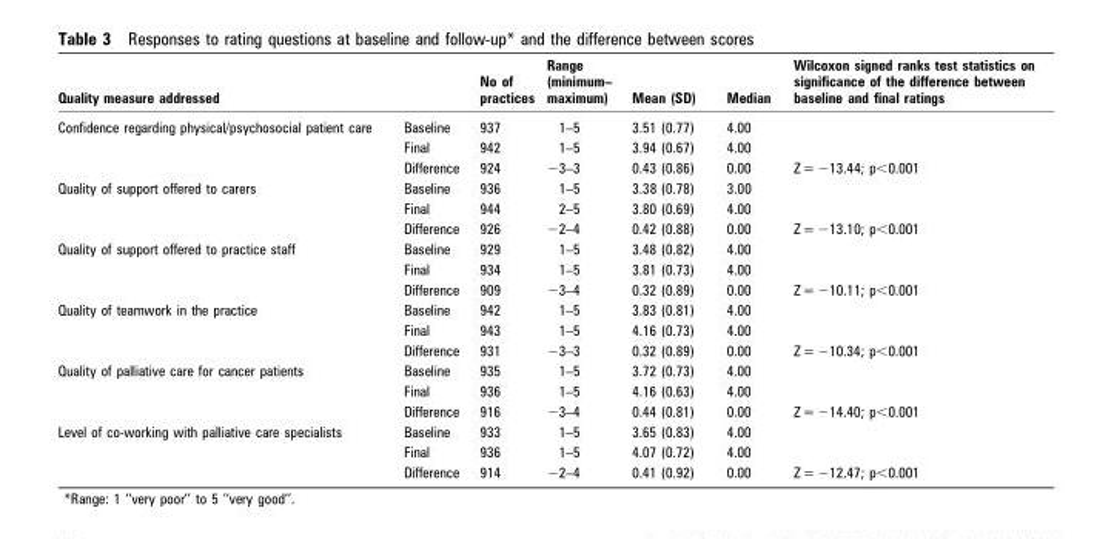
<table><thead><tr><td>Quality measure addressed</td><td></td><td>No of practices</td><td>Range (minimum– maximum)</td><td>Mean (SD)</td><td>Median</td><td>Wilcoxon signed ranks test statistics on significance of the difference between baseline and final ratings</td></tr></thead><tbody><tr><td rowspan="3">Confidence regarding physical/psychosocial patient care</td><td>Baseline</td><td>937</td><td>1–5</td><td>3.51 (0.77)</td><td>4.00</td><td></td></tr><tr><td>Final</td><td>942</td><td>1–5</td><td>3.94 (0.67)</td><td>4.00</td><td></td></tr><tr><td>Difference</td><td>924</td><td>−3–3</td><td>0.43 (0.86)</td><td>0.00</td><td>Z = −13.44; p&lt;0.001</td></tr><tr><td rowspan="3">Quality of support offered to carers</td><td>Baseline</td><td>936</td><td>1–5</td><td>3.38 (0.78)</td><td>3.00</td><td></td></tr><tr><td>Final</td><td>944</td><td>2–5</td><td>3.80 (0.69)</td><td>4.00</td><td></td></tr><tr><td>Difference</td><td>926</td><td>−2–4</td><td>0.42 (0.88)</td><td>0.00</td><td>Z = −13.10; p&lt;0.001</td></tr><tr><td rowspan="3">Quality of support offered to practice staff</td><td>Baseline</td><td>929</td><td>1–5</td><td>3.48 (0.82)</td><td>4.00</td><td></td></tr><tr><td>Final</td><td>934</td><td>1–5</td><td>3.81 (0.73)</td><td>4.00</td><td></td></tr><tr><td>Difference</td><td>909</td><td>−3–4</td><td>0.32 (0.89)</td><td>0.00</td><td>Z = −10.11; p&lt;0.001</td></tr><tr><td rowspan="3">Quality of teamwork in the practice</td><td>Baseline</td><td>942</td><td>1–5</td><td>3.83 (0.81)</td><td>4.00</td><td></td></tr><tr><td>Final</td><td>943</td><td>1–5</td><td>4.16 (0.73)</td><td>4.00</td><td></td></tr><tr><td>Difference</td><td>931</td><td>−3–3</td><td>0.32 (0.89)</td><td>0.00</td><td>Z = −10.34; p&lt;0.001</td></tr><tr><td rowspan="3">Quality of palliative care for cancer patients</td><td>Baseline</td><td>935</td><td>1–5</td><td>3.72 (0.73)</td><td>4.00</td><td></td></tr><tr><td>Final</td><td>936</td><td>1–5</td><td>4.16 (0.63)</td><td>4.00</td><td></td></tr><tr><td>Difference</td><td>916</td><td>−3–4</td><td>0.44 (0.81)</td><td>0.00</td><td>Z = −14.40; p&lt;0.001</td></tr><tr><td rowspan="3">Level of co-working with palliative care specialists</td><td>Baseline</td><td>933</td><td>1–5</td><td>3.65 (0.83)</td><td>4.00</td><td></td></tr><tr><td>Final</td><td>936</td><td>1–5</td><td>4.07 (0.72)</td><td>4.00</td><td></td></tr><tr><td>Difference</td><td>914</td><td>−2–4</td><td>0.41 (0.92)</td><td>0.00</td><td>Z = −12.47; p&lt;0.001</td></tr></tbody></table>